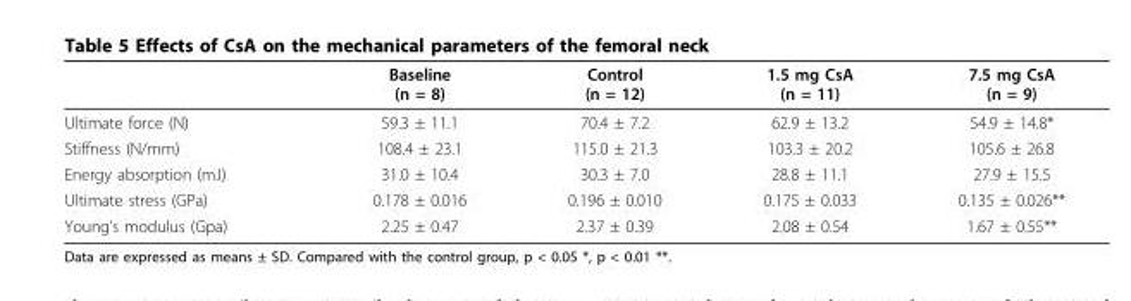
<table><thead><tr><td></td><td>Baseline (n = 8)</td><td>Control (n = 12)</td><td>1.5 mg CsA (n = 11)</td><td>7.5 mg CsA (n = 9)</td></tr></thead><tbody><tr><td>Ultimate force (N)</td><td>59.3 ± 11.1</td><td>70.4 ± 7.2</td><td>62.9 ± 13.2</td><td>54.9 ± 14.8*</td></tr><tr><td>Stiffness (N/mm)</td><td>108.4 ± 23.1</td><td>115.0 ± 21.3</td><td>103.3 ± 20.2</td><td>105.6 ± 26.8</td></tr><tr><td>Energy absorption (mJ)</td><td>31.0 ± 10.4</td><td>30.3 ± 7.0</td><td>28.8 ± 11.1</td><td>27.9 ± 15.5</td></tr><tr><td>Ultimate stress (GPa)</td><td>0.178 ± 0.016</td><td>0.196 ± 0.010</td><td>0.175 ± 0.033</td><td>0.135 ± 0.026**</td></tr><tr><td>Young’s modulus (Gpa)</td><td>2.25 ± 0.47</td><td>2.37 ± 0.39</td><td>2.08 ± 0.54</td><td>1.67 ± 0.55**</td></tr></tbody></table>